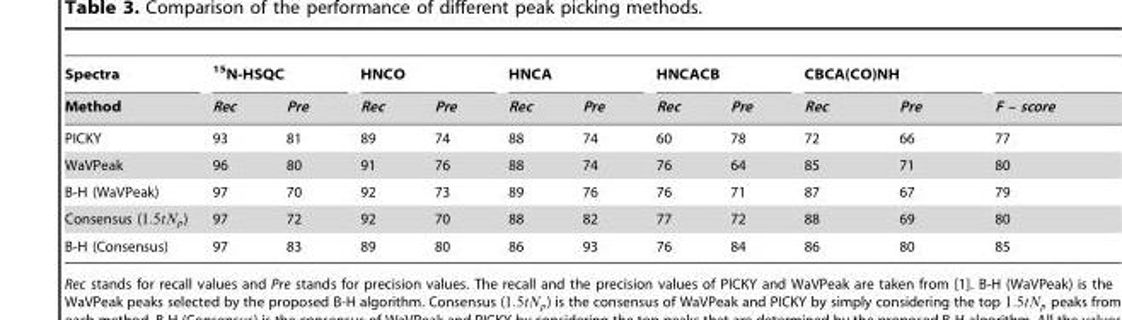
<table><thead><tr><td rowspan="2">Spectra Method</td><td colspan="2"><sup>15</sup>N-HSQC</td><td colspan="2">HNCO</td><td colspan="2">HNCA</td><td colspan="2">HNCACB</td><td colspan="2">CBCA(CO)NH</td><td rowspan="2">F – score</td></tr><tr><td>Rec</td><td>Pre</td><td>Rec</td><td>Pre</td><td>Rec</td><td>Pre</td><td>Rec</td><td>Pre</td><td>Rec</td><td>Pre</td></tr></thead><tbody><tr><td>PICKY</td><td>93</td><td>81</td><td>89</td><td>74</td><td>88</td><td>74</td><td>60</td><td>78</td><td>72</td><td>66</td><td>77</td></tr><tr><td>WaVPeak</td><td>96</td><td>80</td><td>91</td><td>76</td><td>88</td><td>74</td><td>76</td><td>64</td><td>85</td><td>71</td><td>80</td></tr><tr><td>B-H (WaVPeak)</td><td>97</td><td>70</td><td>92</td><td>73</td><td>89</td><td>76</td><td>76</td><td>71</td><td>87</td><td>67</td><td>79</td></tr><tr><td>Consensus (1:5tNp)</td><td>97</td><td>72</td><td>92</td><td>70</td><td>88</td><td>82</td><td>77</td><td>72</td><td>88</td><td>69</td><td>80</td></tr><tr><td>B-H (Consensus)</td><td>97</td><td>83</td><td>89</td><td>80</td><td>86</td><td>93</td><td>76</td><td>84</td><td>86</td><td>80</td><td>85</td></tr></tbody></table>